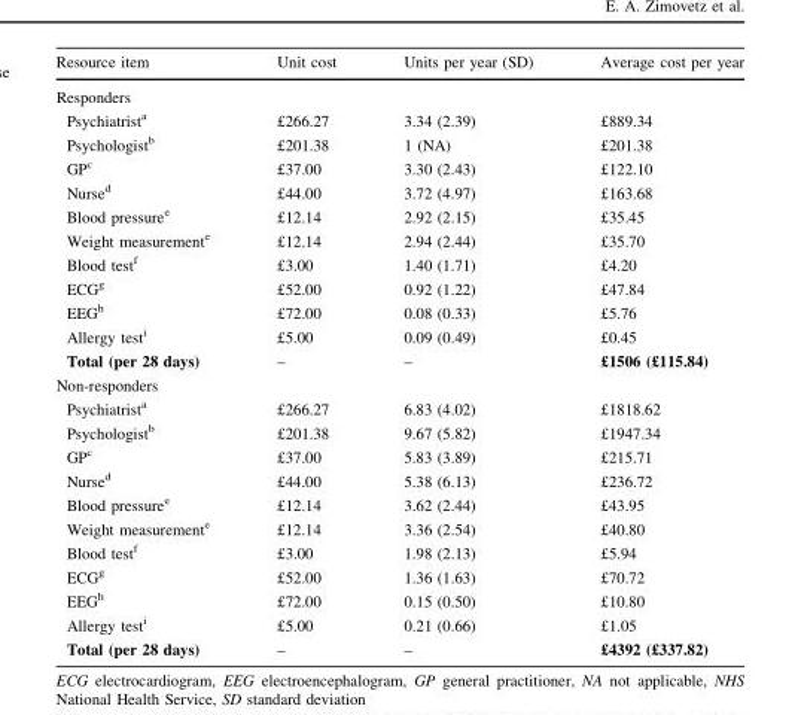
<table><thead><tr><td>Resource item</td><td>Unit cost</td><td>Units per year (SD)</td><td>Average cost per year</td></tr></thead><tbody><tr><td colspan="4">Responders</td></tr><tr><td>Psychiatrist<sup>a</sup></td><td>£266.27</td><td>3.34 (2.39)</td><td>£889.34</td></tr><tr><td>Psychologist<sup>b</sup></td><td>£201.38</td><td>1 (NA)</td><td>£201.38</td></tr><tr><td>GP<sup>c</sup></td><td>£37.00</td><td>3.30 (2.43)</td><td>£122.10</td></tr><tr><td>Nurse<sup>d</sup></td><td>£44.00</td><td>3.72 (4.97)</td><td>£163.68</td></tr><tr><td>Blood pressure<sup>e</sup></td><td>£12.14</td><td>2.92 (2.15)</td><td>£35.45</td></tr><tr><td>Weight measurement<sup>e</sup></td><td>£12.14</td><td>2.94 (2.44)</td><td>£35.70</td></tr><tr><td>Blood test<sup>f</sup></td><td>£3.00</td><td>1.40 (1.71)</td><td>£4.20</td></tr><tr><td>ECG<sup>g</sup></td><td>£52.00</td><td>0.92 (1.22)</td><td>£47.84</td></tr><tr><td>EEG<sup>h</sup></td><td>£72.00</td><td>0.08 (0.33)</td><td>£5.76</td></tr><tr><td>Allergy test<sup>i</sup></td><td>£5.00</td><td>0.09 (0.49)</td><td>£0.45</td></tr><tr><td>Total (per 28 days)</td><td>–</td><td>–</td><td>£1506 (£115.84)</td></tr><tr><td colspan="4">Non-responders</td></tr><tr><td>Psychiatrist<sup>a</sup></td><td>£266.27</td><td>6.83 (4.02)</td><td>£1818.62</td></tr><tr><td>Psychologist<sup>b</sup></td><td>£201.38</td><td>9.67 (5.82)</td><td>£1947.34</td></tr><tr><td>GP<sup>c</sup></td><td>£37.00</td><td>5.83 (3.89)</td><td>£215.71</td></tr><tr><td>Nurse<sup>d</sup></td><td>£44.00</td><td>5.38 (6.13)</td><td>£236.72</td></tr><tr><td>Blood pressure<sup>e</sup></td><td>£12.14</td><td>3.62 (2.44)</td><td>£43.95</td></tr><tr><td>Weight measurement<sup>e</sup></td><td>£12.14</td><td>3.36 (2.54)</td><td>£40.80</td></tr><tr><td>Blood test<sup>f</sup></td><td>£3.00</td><td>1.98 (2.13)</td><td>£5.94</td></tr><tr><td>ECG<sup>g</sup></td><td>£52.00</td><td>1.36 (1.63)</td><td>£70.72</td></tr><tr><td>EEG<sup>h</sup></td><td>£72.00</td><td>0.15 (0.50)</td><td>£10.80</td></tr><tr><td>Allergy test<sup>i</sup></td><td>£5.00</td><td>0.21 (0.66)</td><td>£1.05</td></tr><tr><td>Total (per 28 days)</td><td>–</td><td>–</td><td>£4392 (£337.82)</td></tr></tbody></table>